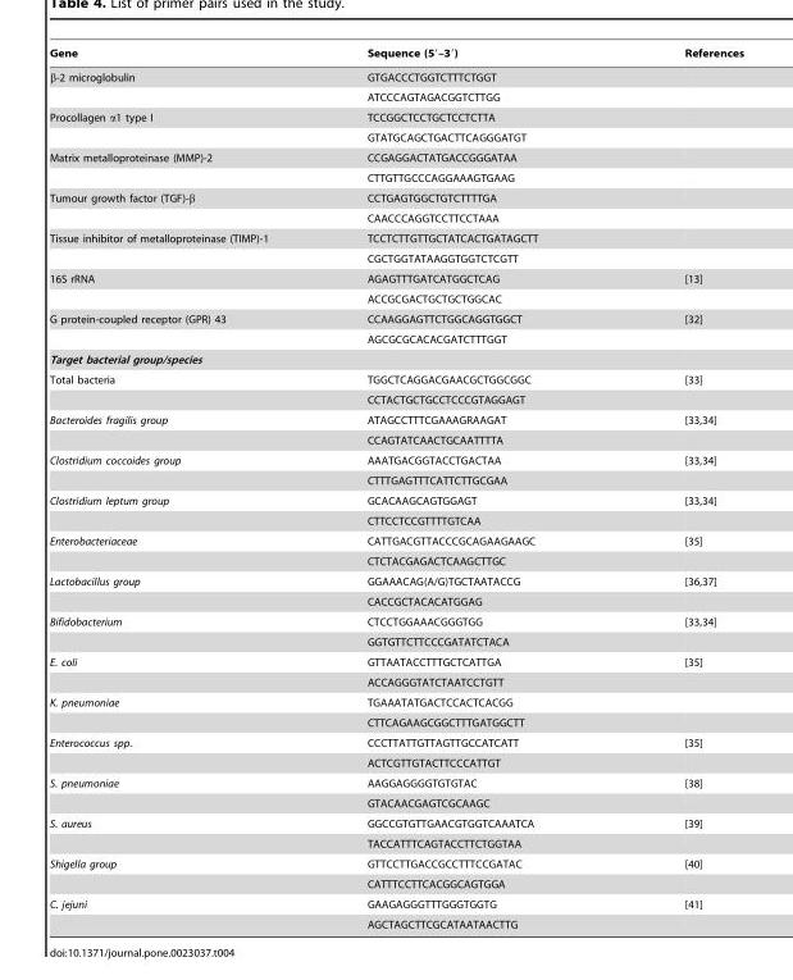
<table><thead><tr><td>Gene</td><td>Sequence (5′–3′)</td><td>References</td></tr></thead><tbody><tr><td rowspan="2">β-2 microglobulin</td><td>GTGACCCTGGTCTTTCTGGT</td><td></td></tr><tr><td>ATCCCAGTAGACGGTCTTGG</td><td></td></tr><tr><td rowspan="2">Procollagen α1 type I</td><td>TCCGGCTCCTGCTCCTCTTA</td><td></td></tr><tr><td>GTATGCAGCTGACTTCAGGGATGT</td><td></td></tr><tr><td rowspan="2">Matrix metalloproteinase (MMP)-2</td><td>CCGAGGACTATGACCGGGATAA</td><td></td></tr><tr><td>CTTGTTGCCCAGGAAAGTGAAG</td><td></td></tr><tr><td rowspan="2">Tumour growth factor (TGF)-β</td><td>CCTGAGTGGCTGTCTTTTGA</td><td></td></tr><tr><td>CAACCCAGGTCCTTCCTAAA</td><td></td></tr><tr><td rowspan="2">Tissue inhibitor of metalloproteinase (TIMP)-1</td><td>TCCTCTTGTTGCTATCACTGATAGCTT</td><td></td></tr><tr><td>CGCTGGTATAAGGTGGTCTCGTT</td><td></td></tr><tr><td rowspan="2">16S rRNA</td><td>AGAGTTTGATCATGGCTCAG</td><td>[13]</td></tr><tr><td>ACCGCGACTGCTGCTGGCAC</td><td></td></tr><tr><td rowspan="2">G protein-coupled receptor (GPR) 43</td><td>CCAAGGAGTTCTGGCAGGTGGCT</td><td>[32]</td></tr><tr><td>AGCGCGCACACGATCTTTGGT</td><td></td></tr><tr><td colspan="3">Target bacterial group/species</td></tr><tr><td rowspan="2">Total bacteria</td><td>TGGCTCAGGACGAACGCTGGCGGC</td><td>[33]</td></tr><tr><td>CCTACTGCTGCCTCCCGTAGGAGT</td><td></td></tr><tr><td rowspan="2">Bacteroides fragilis group</td><td>ATAGCCTTTCGAAAGRAAGAT</td><td>[33,34]</td></tr><tr><td>CCAGTATCAACTGCAATTTTA</td><td></td></tr><tr><td rowspan="2">Clostridium coccoides group</td><td>AAATGACGGTACCTGACTAA</td><td>[33,34]</td></tr><tr><td>CTTTGAGTTTCATTCTTGCGAA</td><td></td></tr><tr><td rowspan="2">Clostridium leptum group</td><td>GCACAAGCAGTGGAGT</td><td>[33,34]</td></tr><tr><td>CTTCCTCCGTTTTGTCAA</td><td></td></tr><tr><td rowspan="2">Enterobacteriaceae</td><td>CATTGACGTTACCCGCAGAAGAAGC</td><td>[35]</td></tr><tr><td>CTCTACGAGACTCAAGCTTGC</td><td></td></tr><tr><td rowspan="2">Lactobacillus group</td><td>GGAAACAG(A/G)TGCTAATACCG</td><td>[36,37]</td></tr><tr><td>CACCGCTACACATGGAG</td><td></td></tr><tr><td rowspan="2">Bifidobacterium</td><td>CTCCTGGAAACGGGTGG</td><td>[33,34]</td></tr><tr><td>GGTGTTCTTCCCGATATCTACA</td><td></td></tr><tr><td rowspan="2">E. coli</td><td>GTTAATACCTTTGCTCATTGA</td><td>[35]</td></tr><tr><td>ACCAGGGTATCTAATCCTGTT</td><td></td></tr><tr><td rowspan="2">K. pneumoniae</td><td>TGAAATATGACTCCACTCACGG</td><td></td></tr><tr><td>CTTCAGAAGCGGCTTTGATGGCTT</td><td></td></tr><tr><td rowspan="2">Enterococcus spp.</td><td>CCCTTATTGTTAGTTGCCATCATT</td><td>[35]</td></tr><tr><td>ACTCGTTGTACTTCCCATTGT</td><td></td></tr><tr><td rowspan="2">S. pneumoniae</td><td>AAGGAGGGGTGTGTAC</td><td>[38]</td></tr><tr><td>GTACAACGAGTCGCAAGC</td><td></td></tr><tr><td rowspan="2">S. aureus</td><td>GGCCGTGTTGAACGTGGTCAAATCA</td><td>[39]</td></tr><tr><td>TACCATTTCAGTACCTTCTGGTAA</td><td></td></tr><tr><td rowspan="2">Shigella group</td><td>GTTCCTTGACCGCCTTTCCGATAC</td><td>[40]</td></tr><tr><td>CATTTCCTTCACGGCAGTGGA</td><td></td></tr><tr><td rowspan="2">C. jejuni</td><td>GAAGAGGGTTTGGGTGGTG</td><td>[41]</td></tr><tr><td>AGCTAGCTTCGCATAATAACTTG</td><td></td></tr></tbody></table>